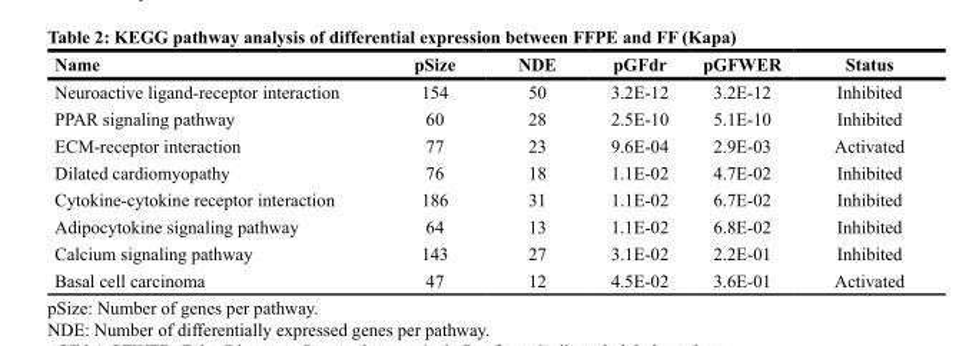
<table><thead><tr><td>Name</td><td>pSize</td><td>NDE</td><td>pGFdr</td><td>pGFWER</td><td>Status</td></tr></thead><tbody><tr><td>Neuroactive ligand-receptor interaction</td><td>154</td><td>50</td><td>3.2E-12</td><td>3.2E-12</td><td>Inhibited</td></tr><tr><td>PPAR signaling pathway</td><td>60</td><td>28</td><td>2.5E-10</td><td>5.1E-10</td><td>Inhibited</td></tr><tr><td>ECM-receptor interaction</td><td>77</td><td>23</td><td>9.6E-04</td><td>2.9E-03</td><td>Activated</td></tr><tr><td>Dilated cardiomyopathy</td><td>76</td><td>18</td><td>1.1E-02</td><td>4.7E-02</td><td>Inhibited</td></tr><tr><td>Cytokine-cytokine receptor interaction</td><td>186</td><td>31</td><td>1.1E-02</td><td>6.7E-02</td><td>Inhibited</td></tr><tr><td>Adipocytokine signaling pathway</td><td>64</td><td>13</td><td>1.1E-02</td><td>6.8E-02</td><td>Inhibited</td></tr><tr><td>Calcium signaling pathway</td><td>143</td><td>27</td><td>3.1E-02</td><td>2.2E-01</td><td>Inhibited</td></tr><tr><td>Basal cell carcinoma</td><td>47</td><td>12</td><td>4.5E-02</td><td>3.6E-01</td><td>Activated</td></tr></tbody></table>